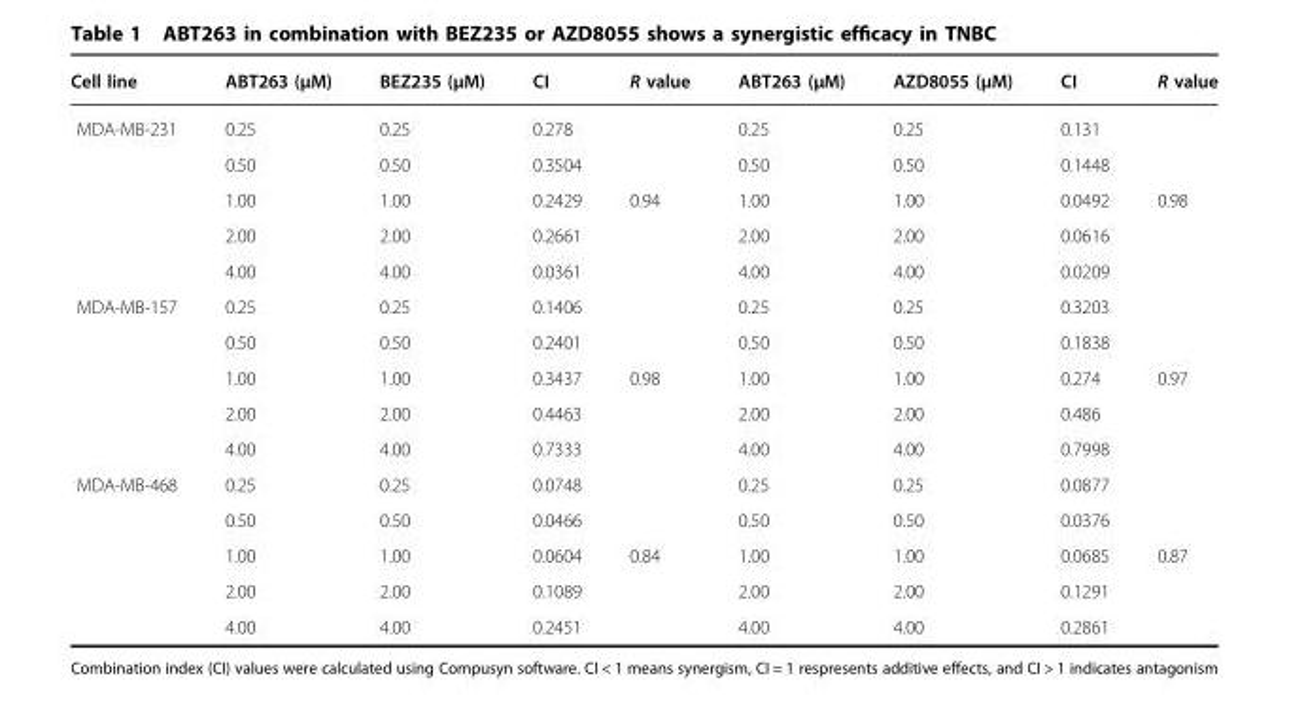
<table><thead><tr><td>Cell line</td><td>ABT263 (μM)</td><td>BEZ235 (μM)</td><td>CI</td><td>R value</td><td>ABT263 (μM)</td><td>AZD8055 (μM)</td><td>CI</td><td>R value</td></tr></thead><tbody><tr><td rowspan="5">MDA-MB-231</td><td>0.25</td><td>0.25</td><td>0.278</td><td></td><td>0.25</td><td>0.25</td><td>0.131</td><td></td></tr><tr><td>0.50</td><td>0.50</td><td>0.3504</td><td></td><td>0.50</td><td>0.50</td><td>0.1448</td><td></td></tr><tr><td>1.00</td><td>1.00</td><td>0.2429</td><td>0.94</td><td>1.00</td><td>1.00</td><td>0.0492</td><td>0.98</td></tr><tr><td>2.00</td><td>2.00</td><td>0.2661</td><td></td><td>2.00</td><td>2.00</td><td>0.0616</td><td></td></tr><tr><td>4.00</td><td>4.00</td><td>0.0361</td><td></td><td>4.00</td><td>4.00</td><td>0.0209</td><td></td></tr><tr><td rowspan="5">MDA-MB-157</td><td>0.25</td><td>0.25</td><td>0.1406</td><td></td><td>0.25</td><td>0.25</td><td>0.3203</td><td></td></tr><tr><td>0.50</td><td>0.50</td><td>0.2401</td><td></td><td>0.50</td><td>0.50</td><td>0.1838</td><td></td></tr><tr><td>1.00</td><td>1.00</td><td>0.3437</td><td>0.98</td><td>1.00</td><td>1.00</td><td>0.274</td><td>0.97</td></tr><tr><td>2.00</td><td>2.00</td><td>0.4463</td><td></td><td>2.00</td><td>2.00</td><td>0.486</td><td></td></tr><tr><td>4.00</td><td>4.00</td><td>0.7333</td><td></td><td>4.00</td><td>4.00</td><td>0.7998</td><td></td></tr><tr><td rowspan="5">MDA-MB-468</td><td>0.25</td><td>0.25</td><td>0.0748</td><td></td><td>0.25</td><td>0.25</td><td>0.0877</td><td></td></tr><tr><td>0.50</td><td>0.50</td><td>0.0466</td><td></td><td>0.50</td><td>0.50</td><td>0.0376</td><td></td></tr><tr><td>1.00</td><td>1.00</td><td>0.0604</td><td>0.84</td><td>1.00</td><td>1.00</td><td>0.0685</td><td>0.87</td></tr><tr><td>2.00</td><td>2.00</td><td>0.1089</td><td></td><td>2.00</td><td>2.00</td><td>0.1291</td><td></td></tr><tr><td>4.00</td><td>4.00</td><td>0.2451</td><td></td><td>4.00</td><td>4.00</td><td>0.2861</td><td></td></tr></tbody></table>